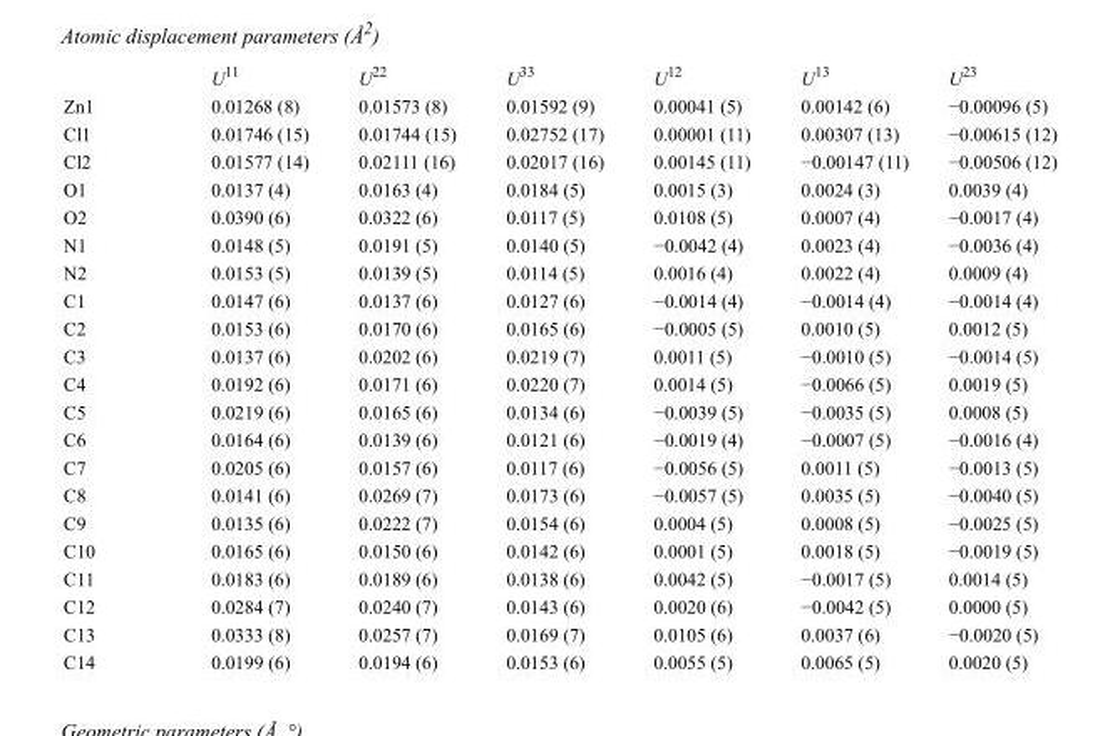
<table><thead><tr><td></td><td>U<sup>11</sup></td><td>U<sup>22</sup></td><td>U<sup>33</sup></td><td>U<sup>12</sup></td><td>U<sup>13</sup></td><td>U<sup>23</sup></td></tr></thead><tbody><tr><td>Zn1</td><td>0.01268 (8)</td><td>0.01573 (8)</td><td>0.01592 (9)</td><td>0.00041 (5)</td><td>0.00142 (6)</td><td>−0.00096 (5)</td></tr><tr><td>Cl1</td><td>0.01746 (15)</td><td>0.01744 (15)</td><td>0.02752 (17)</td><td>0.00001 (11)</td><td>0.00307 (13)</td><td>−0.00615 (12)</td></tr><tr><td>Cl2</td><td>0.01577 (14)</td><td>0.02111 (16)</td><td>0.02017 (16)</td><td>0.00145 (11)</td><td>−0.00147 (11)</td><td>−0.00506 (12)</td></tr><tr><td>O1</td><td>0.0137 (4)</td><td>0.0163 (4)</td><td>0.0184 (5)</td><td>0.0015 (3)</td><td>0.0024 (3)</td><td>0.0039 (4)</td></tr><tr><td>O2</td><td>0.0390 (6)</td><td>0.0322 (6)</td><td>0.0117 (5)</td><td>0.0108 (5)</td><td>0.0007 (4)</td><td>−0.0017 (4)</td></tr><tr><td>N1</td><td>0.0148 (5)</td><td>0.0191 (5)</td><td>0.0140 (5)</td><td>−0.0042 (4)</td><td>0.0023 (4)</td><td>−0.0036 (4)</td></tr><tr><td>N2</td><td>0.0153 (5)</td><td>0.0139 (5)</td><td>0.0114 (5)</td><td>0.0016 (4)</td><td>0.0022 (4)</td><td>0.0009 (4)</td></tr><tr><td>C1</td><td>0.0147 (6)</td><td>0.0137 (6)</td><td>0.0127 (6)</td><td>−0.0014 (4)</td><td>−0.0014 (4)</td><td>−0.0014 (4)</td></tr><tr><td>C2</td><td>0.0153 (6)</td><td>0.0170 (6)</td><td>0.0165 (6)</td><td>−0.0005 (5)</td><td>0.0010 (5)</td><td>0.0012 (5)</td></tr><tr><td>C3</td><td>0.0137 (6)</td><td>0.0202 (6)</td><td>0.0219 (7)</td><td>0.0011 (5)</td><td>−0.0010 (5)</td><td>−0.0014 (5)</td></tr><tr><td>C4</td><td>0.0192 (6)</td><td>0.0171 (6)</td><td>0.0220 (7)</td><td>0.0014 (5)</td><td>−0.0066 (5)</td><td>0.0019 (5)</td></tr><tr><td>C5</td><td>0.0219 (6)</td><td>0.0165 (6)</td><td>0.0134 (6)</td><td>−0.0039 (5)</td><td>−0.0035 (5)</td><td>0.0008 (5)</td></tr><tr><td>C6</td><td>0.0164 (6)</td><td>0.0139 (6)</td><td>0.0121 (6)</td><td>−0.0019 (4)</td><td>−0.0007 (5)</td><td>−0.0016 (4)</td></tr><tr><td>C7</td><td>0.0205 (6)</td><td>0.0157 (6)</td><td>0.0117 (6)</td><td>−0.0056 (5)</td><td>0.0011 (5)</td><td>−0.0013 (5)</td></tr><tr><td>C8</td><td>0.0141 (6)</td><td>0.0269 (7)</td><td>0.0173 (6)</td><td>−0.0057 (5)</td><td>0.0035 (5)</td><td>−0.0040 (5)</td></tr><tr><td>C9</td><td>0.0135 (6)</td><td>0.0222 (7)</td><td>0.0154 (6)</td><td>0.0004 (5)</td><td>0.0008 (5)</td><td>−0.0025 (5)</td></tr><tr><td>C10</td><td>0.0165 (6)</td><td>0.0150 (6)</td><td>0.0142 (6)</td><td>0.0001 (5)</td><td>0.0018 (5)</td><td>−0.0019 (5)</td></tr><tr><td>C11</td><td>0.0183 (6)</td><td>0.0189 (6)</td><td>0.0138 (6)</td><td>0.0042 (5)</td><td>−0.0017 (5)</td><td>0.0014 (5)</td></tr><tr><td>C12</td><td>0.0284 (7)</td><td>0.0240 (7)</td><td>0.0143 (6)</td><td>0.0020 (6)</td><td>−0.0042 (5)</td><td>0.0000 (5)</td></tr><tr><td>C13</td><td>0.0333 (8)</td><td>0.0257 (7)</td><td>0.0169 (7)</td><td>0.0105 (6)</td><td>0.0037 (6)</td><td>−0.0020 (5)</td></tr><tr><td>C14</td><td>0.0199 (6)</td><td>0.0194 (6)</td><td>0.0153 (6)</td><td>0.0055 (5)</td><td>0.0065 (5)</td><td>0.0020 (5)</td></tr></tbody></table>